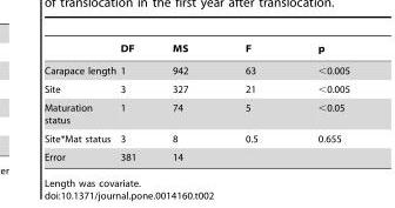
<table><thead><tr><td></td><td>DF</td><td>MS</td><td>F</td><td>p</td></tr></thead><tbody><tr><td>Carapace length</td><td>1</td><td>942</td><td>63</td><td>&lt;0.005</td></tr><tr><td>Site</td><td>3</td><td>327</td><td>21</td><td>&lt;0.005</td></tr><tr><td>Maturation status</td><td>1</td><td>74</td><td>5</td><td>&lt;0.05</td></tr><tr><td>Site*Mat status</td><td>3</td><td>8</td><td>0.5</td><td>0.655</td></tr><tr><td>Error</td><td>381</td><td>14</td><td></td><td></td></tr></tbody></table>